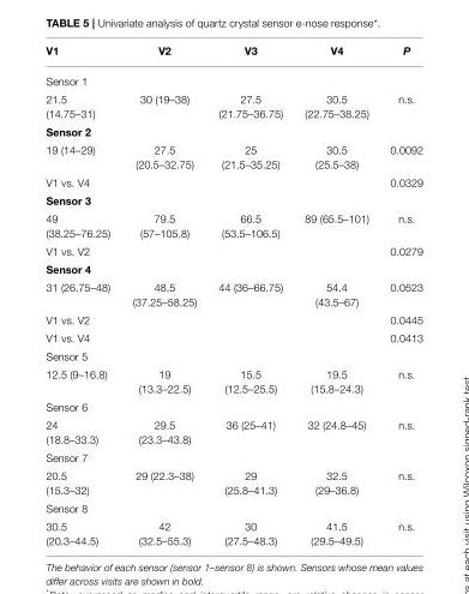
<table><thead><tr><td>V1</td><td>V2</td><td>V3</td><td>V4</td><td>P</td></tr></thead><tbody><tr><td colspan="5">Sensor 1</td></tr><tr><td>21.5 (14.75–31)</td><td>30 (19–38)</td><td>27.5 (21.75–36.75)</td><td>30.5 (22.75–38.25)</td><td>n.s.</td></tr><tr><td colspan="5">Sensor 2</td></tr><tr><td>19 (14–29)</td><td>27.5 (20.5–32.75)</td><td>25 (21.5–35.25)</td><td>30.5 (25.5–38)</td><td>0.0092</td></tr><tr><td>V1 vs. V4</td><td></td><td></td><td></td><td>0.0329</td></tr><tr><td colspan="5">Sensor 3</td></tr><tr><td>49 (38.25–76.25)</td><td>79.5 (57–105.8)</td><td>66.5 (53.5–106.5)</td><td>89 (65.5–101)</td><td>n.s.</td></tr><tr><td>V1 vs. V2</td><td></td><td></td><td></td><td>0.0279</td></tr><tr><td colspan="5">Sensor 4</td></tr><tr><td>31 (26.75–48)</td><td>48.5 (37.25–58.25)</td><td>44 (36–66.75)</td><td>54.4 (43.5–67)</td><td>0.0523</td></tr><tr><td>V1 vs. V2</td><td></td><td></td><td></td><td>0.0445</td></tr><tr><td>V1 vs. V4</td><td></td><td></td><td></td><td>0.0413</td></tr><tr><td colspan="5">Sensor 5</td></tr><tr><td>12.5 (9–16.8)</td><td>19 (13.3–22.5)</td><td>15.5 (12.5–25.5)</td><td>19.5 (15.8–24.3)</td><td>n.s.</td></tr><tr><td colspan="5">Sensor 6</td></tr><tr><td>24 (18.8–33.3)</td><td>29.5 (23.3–43.8)</td><td>36 (25–41)</td><td>32 (24.8–45)</td><td>n.s.</td></tr><tr><td colspan="5">Sensor 7</td></tr><tr><td>20.5 (15.3–32)</td><td>29 (22.3–38)</td><td>29 (25.8–41.3)</td><td>32.5 (29–36.8)</td><td>n.s.</td></tr><tr><td colspan="5">Sensor 8</td></tr><tr><td>30.5 (20.3–44.5)</td><td>42 (32.5–55.3)</td><td>30 (27.5–48.3)</td><td>41.5 (29.5–49.5)</td><td>n.s.</td></tr></tbody></table>